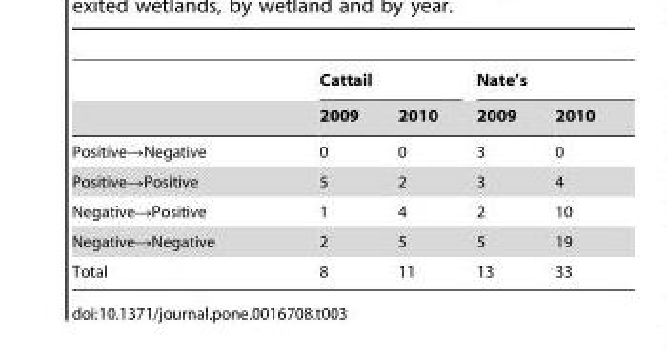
<table><thead><tr><td rowspan="2"></td><td colspan="2">Cattail</td><td colspan="2">Nate’s</td></tr><tr><td>2009</td><td>2010</td><td>2009</td><td>2010</td></tr></thead><tbody><tr><td>Positive→Negative</td><td>0</td><td>0</td><td>3</td><td>0</td></tr><tr><td>Positive→Positive</td><td>5</td><td>2</td><td>3</td><td>4</td></tr><tr><td>Negative→Positive</td><td>1</td><td>4</td><td>2</td><td>10</td></tr><tr><td>Negative→Negative</td><td>2</td><td>5</td><td>5</td><td>19</td></tr><tr><td>Total</td><td>8</td><td>11</td><td>13</td><td>33</td></tr></tbody></table>